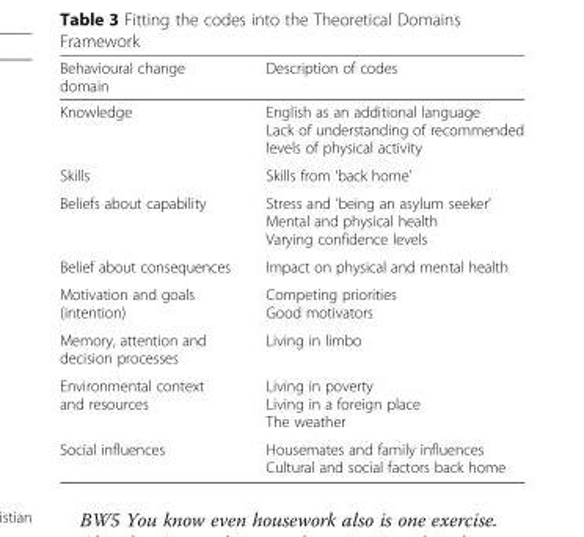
<table><thead><tr><td>Behavioural change domain</td><td>Description of codes</td></tr></thead><tbody><tr><td>Knowledge</td><td>English as an additional language Lack of understanding of recommended levels of physical activity</td></tr><tr><td>Skills</td><td>Skills from ‘back home’</td></tr><tr><td>Beliefs about capability</td><td>Stress and ‘being an asylum seeker’ Mental and physical health Varying confidence levels</td></tr><tr><td>Belief about consequences</td><td>Impact on physical and mental health</td></tr><tr><td>Motivation and goals (intention)</td><td>Competing priorities Good motivators</td></tr><tr><td>Memory, attention and decision processes</td><td>Living in limbo</td></tr><tr><td>Environmental context and resources</td><td>Living in poverty Living in a foreign place The weather</td></tr><tr><td>Social influences</td><td>Housemates and family influences Cultural and social factors back home</td></tr></tbody></table>